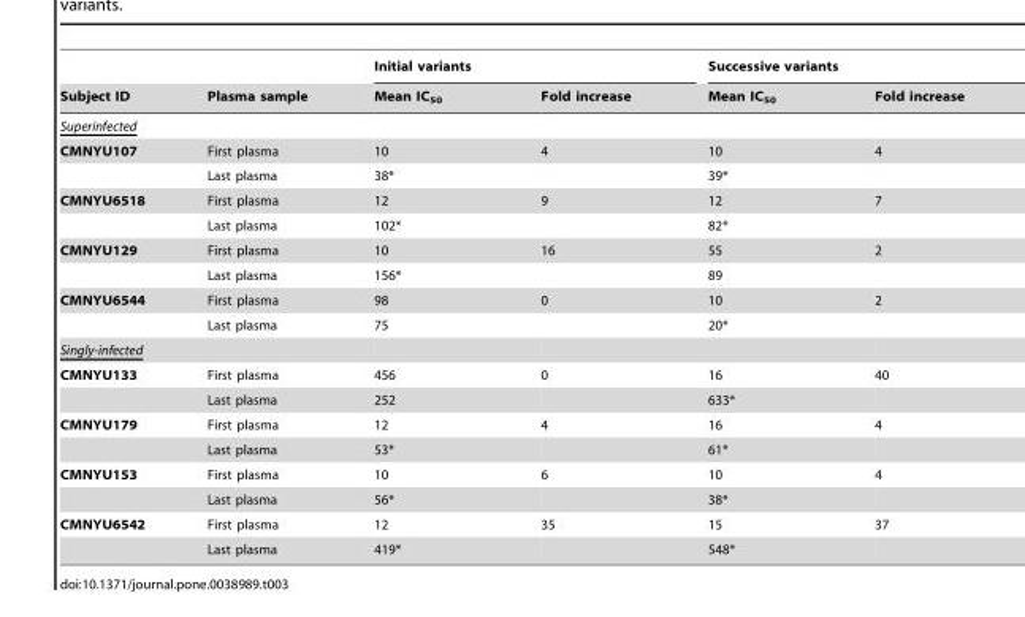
<table><thead><tr><td rowspan="2">Subject ID</td><td rowspan="2">Plasma sample</td><td colspan="2">Initial variants</td><td colspan="2">Successive variants</td></tr><tr><td>Mean IC<sub>50</sub></td><td>Fold increase</td><td>Mean IC<sub>50</sub></td><td>Fold increase</td></tr></thead><tbody><tr><td colspan="6">Superinfected</td></tr><tr><td rowspan="2">CMNYU107</td><td>First plasma</td><td>10</td><td>4</td><td>10</td><td>4</td></tr><tr><td>Last plasma</td><td>38*</td><td></td><td>39*</td><td></td></tr><tr><td rowspan="2">CMNYU6518</td><td>First plasma</td><td>12</td><td>9</td><td>12</td><td>7</td></tr><tr><td>Last plasma</td><td>102*</td><td></td><td>82*</td><td></td></tr><tr><td rowspan="2">CMNYU129</td><td>First plasma</td><td>10</td><td>16</td><td>55</td><td>2</td></tr><tr><td>Last plasma</td><td>156*</td><td></td><td>89</td><td></td></tr><tr><td rowspan="2">CMNYU6544</td><td>First plasma</td><td>98</td><td>0</td><td>10</td><td>2</td></tr><tr><td>Last plasma</td><td>75</td><td></td><td>20*</td><td></td></tr><tr><td colspan="6">Singly-infected</td></tr><tr><td rowspan="2">CMNYU133</td><td>First plasma</td><td>456</td><td>0</td><td>16</td><td>40</td></tr><tr><td>Last plasma</td><td>252</td><td></td><td>633*</td><td></td></tr><tr><td rowspan="2">CMNYU179</td><td>First plasma</td><td>12</td><td>4</td><td>16</td><td>4</td></tr><tr><td>Last plasma</td><td>53*</td><td></td><td>61*</td><td></td></tr><tr><td rowspan="2">CMNYU153</td><td>First plasma</td><td>10</td><td>6</td><td>10</td><td>4</td></tr><tr><td>Last plasma</td><td>56*</td><td></td><td>38*</td><td></td></tr><tr><td rowspan="2">CMNYU6542</td><td>First plasma</td><td>12</td><td>35</td><td>15</td><td>37</td></tr><tr><td>Last plasma</td><td>419*</td><td></td><td>548*</td><td></td></tr></tbody></table>